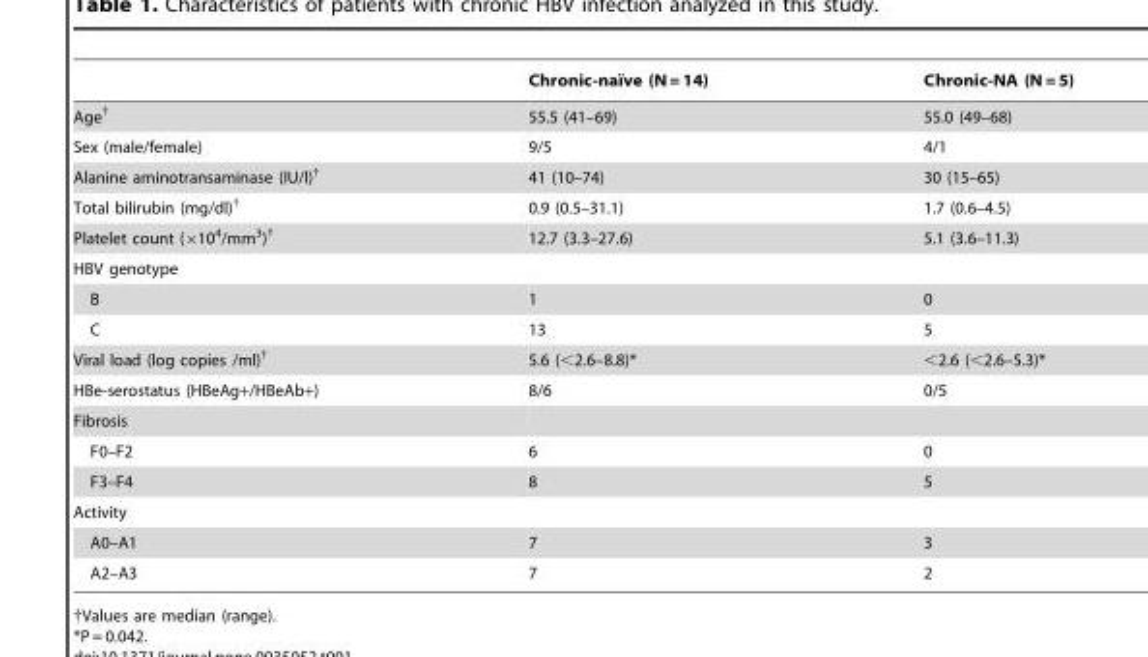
<table><thead><tr><td></td><td>Chronic-naı¨ve (N = 14)</td><td>Chronic-NA (N = 5)</td></tr></thead><tbody><tr><td>Age†</td><td>55.5 (41–69)</td><td>55.0 (49–68)</td></tr><tr><td>Sex (male/female)</td><td>9/5</td><td>4/1</td></tr><tr><td>Alanine aminotransaminase (IU/l)†</td><td>41 (10–74)</td><td>30 (15–65)</td></tr><tr><td>Total bilirubin (mg/dl)†</td><td>0.9 (0.5–31.1)</td><td>1.7 (0.6–4.5)</td></tr><tr><td>Platelet count (×10<sup>4</sup>/mm<sup>3</sup>)†</td><td>12.7 (3.3–27.6)</td><td>5.1 (3.6–11.3)</td></tr><tr><td colspan="3">HBV genotype</td></tr><tr><td>B</td><td>1</td><td>0</td></tr><tr><td>C</td><td>13</td><td>5</td></tr><tr><td>Viral load (log copies /ml)†</td><td>5.6 (&lt;2.6–8.8)*</td><td>&lt;2.6 (&lt;2.6–5.3)*</td></tr><tr><td>HBe-serostatus (HBeAg+/HBeAb+)</td><td>8/6</td><td>0/5</td></tr><tr><td colspan="3">Fibrosis</td></tr><tr><td>F0–F2</td><td>6</td><td>0</td></tr><tr><td>F3–F4</td><td>8</td><td>5</td></tr><tr><td colspan="3">Activity</td></tr><tr><td>A0–A1</td><td>7</td><td>3</td></tr><tr><td>A2–A3</td><td>7</td><td>2</td></tr></tbody></table>